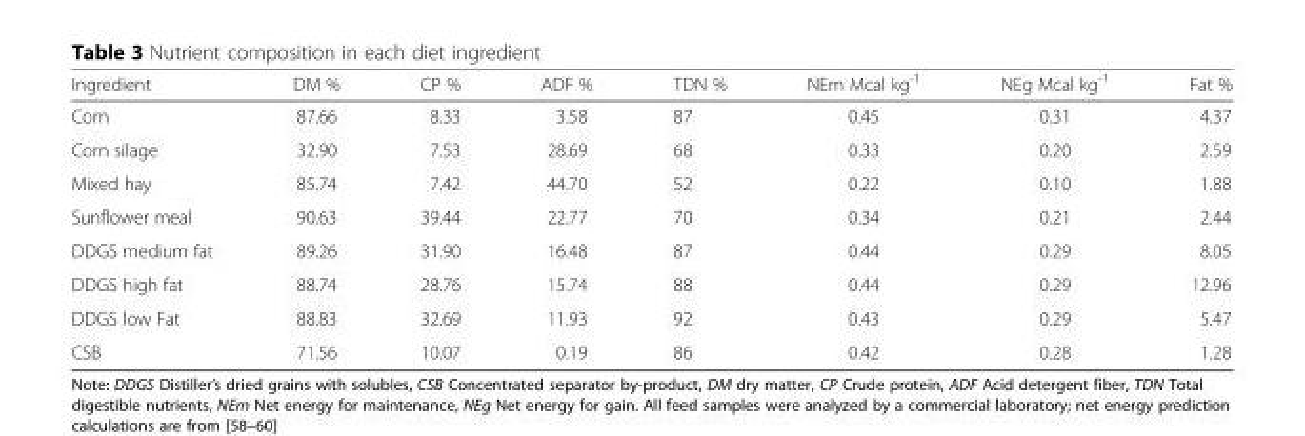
<table><thead><tr><td>Ingredient</td><td>DM %</td><td>CP %</td><td>ADF %</td><td>TDN %</td><td>NEm Mcal kg<sup>-1</sup></td><td>NEg Mcal kg<sup>-1</sup></td><td>Fat %</td></tr></thead><tbody><tr><td>Corn</td><td>87.66</td><td>8.33</td><td>3.58</td><td>87</td><td>0.45</td><td>0.31</td><td>4.37</td></tr><tr><td>Corn silage</td><td>32.90</td><td>7.53</td><td>28.69</td><td>68</td><td>0.33</td><td>0.20</td><td>2.59</td></tr><tr><td>Mixed hay</td><td>85.74</td><td>7.42</td><td>44.70</td><td>52</td><td>0.22</td><td>0.10</td><td>1.88</td></tr><tr><td>Sunflower meal</td><td>90.63</td><td>39.44</td><td>22.77</td><td>70</td><td>0.34</td><td>0.21</td><td>2.44</td></tr><tr><td>DDGS medium fat</td><td>89.26</td><td>31.90</td><td>16.48</td><td>87</td><td>0.44</td><td>0.29</td><td>8.05</td></tr><tr><td>DDGS high fat</td><td>88.74</td><td>28.76</td><td>15.74</td><td>88</td><td>0.44</td><td>0.29</td><td>12.96</td></tr><tr><td>DDGS low Fat</td><td>88.83</td><td>32.69</td><td>11.93</td><td>92</td><td>0.43</td><td>0.29</td><td>5.47</td></tr><tr><td>CSB</td><td>71.56</td><td>10.07</td><td>0.19</td><td>86</td><td>0.42</td><td>0.28</td><td>1.28</td></tr></tbody></table>